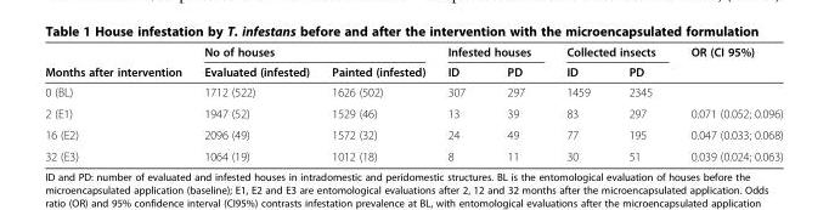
<table><thead><tr><td rowspan="2">Months after intervention</td><td colspan="2">No of houses</td><td colspan="2">Infested houses</td><td colspan="2">Collected insects</td><td rowspan="2">OR (CI 95%)</td></tr><tr><td>Evaluated (infested)</td><td>Painted (infested)</td><td>ID</td><td>PD</td><td>ID</td><td>PD</td></tr></thead><tbody><tr><td>0 (BL)</td><td>1712 (522)</td><td>1626 (502)</td><td>307</td><td>297</td><td>1459</td><td>2345</td><td></td></tr><tr><td>2 (E1)</td><td>1947 (52)</td><td>1529 (46)</td><td>13</td><td>39</td><td>83</td><td>297</td><td>0.071 (0.052; 0.096)</td></tr><tr><td>16 (E2)</td><td>2096 (49)</td><td>1572 (32)</td><td>24</td><td>49</td><td>77</td><td>195</td><td>0.047 (0.033; 0.068)</td></tr><tr><td>32 (E3)</td><td>1064 (19)</td><td>1012 (18)</td><td>8</td><td>11</td><td>30</td><td>51</td><td>0.039 (0.024; 0.063)</td></tr></tbody></table>